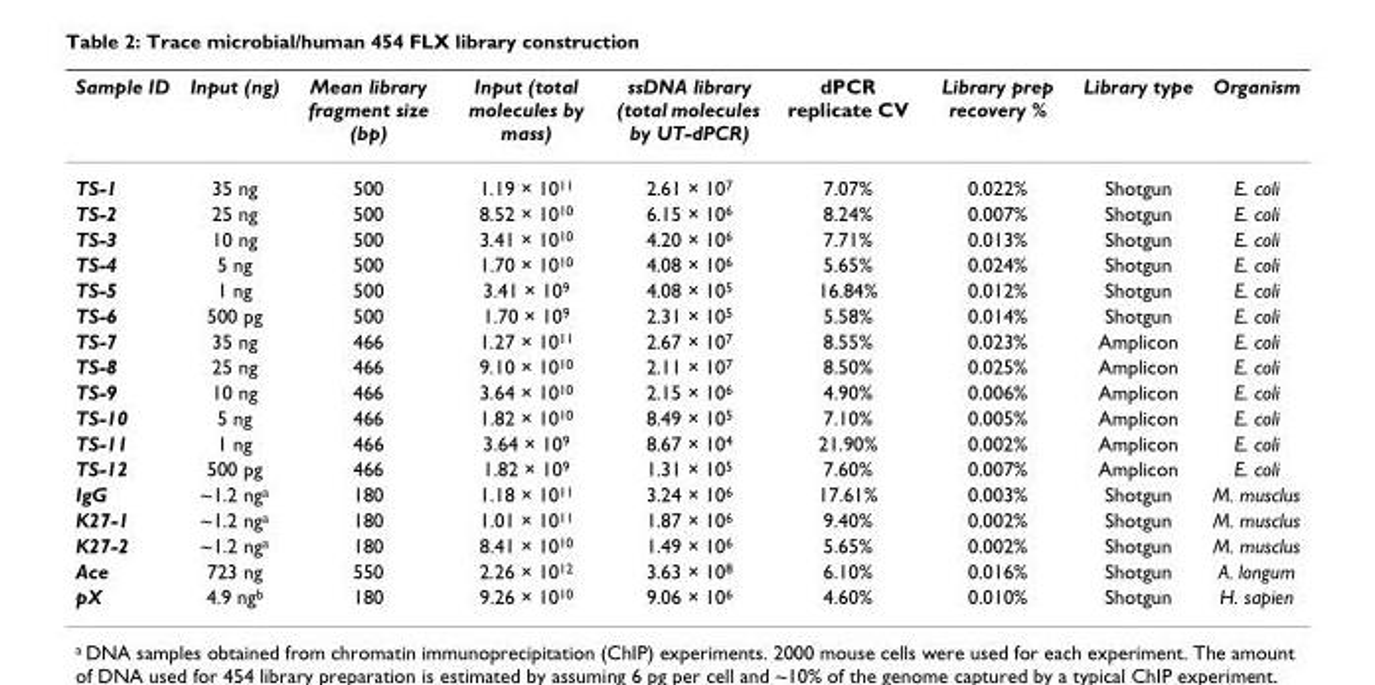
<table><thead><tr><td>Sample ID</td><td>Input (ng)</td><td>Mean library fragment size (bp)</td><td>Input (total molecules by mass)</td><td>ssDNA library (total molecules by UT-dPCR)</td><td>dPCR replicate CV</td><td>Library prep recovery %</td><td>Library type</td><td>Organism</td></tr></thead><tbody><tr><td>TS-1</td><td>35 ng</td><td>500</td><td>1.19 × 10<sup>11</sup></td><td>2.61 × 10<sup>7</sup></td><td>7.07%</td><td>0.022%</td><td>Shotgun</td><td>E. coli</td></tr><tr><td>TS-2</td><td>25 ng</td><td>500</td><td>8.52 × 10<sup>10</sup></td><td>6.15 × 10<sup>6</sup></td><td>8.24%</td><td>0.007%</td><td>Shotgun</td><td>E. coli</td></tr><tr><td>TS-3</td><td>10 ng</td><td>500</td><td>3.41 × 10<sup>10</sup></td><td>4.20 × 10<sup>6</sup></td><td>7.71%</td><td>0.013%</td><td>Shotgun</td><td>E. coli</td></tr><tr><td>TS-4</td><td>5 ng</td><td>500</td><td>1.70 × 10<sup>10</sup></td><td>4.08 × 10<sup>6</sup></td><td>5.65%</td><td>0.024%</td><td>Shotgun</td><td>E. coli</td></tr><tr><td>TS-5</td><td>1 ng</td><td>500</td><td>3.41 × 10<sup>9</sup></td><td>4.08 × 10<sup>5</sup></td><td>16.84%</td><td>0.012%</td><td>Shotgun</td><td>E. coli</td></tr><tr><td>TS-6</td><td>500 pg</td><td>500</td><td>1.70 × 10<sup>9</sup></td><td>2.31 × 10<sup>5</sup></td><td>5.58%</td><td>0.014%</td><td>Shotgun</td><td>E. coli</td></tr><tr><td>TS-7</td><td>35 ng</td><td>466</td><td>1.27 × 10<sup>11</sup></td><td>2.67 × 10<sup>7</sup></td><td>8.55%</td><td>0.023%</td><td>Amplicon</td><td>E. coli</td></tr><tr><td>TS-8</td><td>25 ng</td><td>466</td><td>9.10 × 10<sup>10</sup></td><td>2.11 × 10<sup>7</sup></td><td>8.50%</td><td>0.025%</td><td>Amplicon</td><td>E. coli</td></tr><tr><td>TS-9</td><td>10 ng</td><td>466</td><td>3.64 × 10<sup>10</sup></td><td>2.15 × 10<sup>6</sup></td><td>4.90%</td><td>0.006%</td><td>Amplicon</td><td>E. coli</td></tr><tr><td>TS-10</td><td>5 ng</td><td>466</td><td>1.82 × 10<sup>10</sup></td><td>8.49 × 10<sup>5</sup></td><td>7.10%</td><td>0.005%</td><td>Amplicon</td><td>E. coli</td></tr><tr><td>TS-11</td><td>1 ng</td><td>466</td><td>3.64 × 10<sup>9</sup></td><td>8.67 × 10<sup>4</sup></td><td>21.90%</td><td>0.002%</td><td>Amplicon</td><td>E. coli</td></tr><tr><td>TS-12</td><td>500 pg</td><td>466</td><td>1.82 × 10<sup>9</sup></td><td>1.31 × 10<sup>5</sup></td><td>7.60%</td><td>0.007%</td><td>Amplicon</td><td>E. coli</td></tr><tr><td>IgG</td><td>~1.2 ng<sup>a</sup></td><td>180</td><td>1.18 × 10<sup>11</sup></td><td>3.24 × 10<sup>6</sup></td><td>17.61%</td><td>0.003%</td><td>Shotgun</td><td>M. musclus</td></tr><tr><td>K27-1</td><td>~1.2 ng<sup>a</sup></td><td>180</td><td>1.01 × 10<sup>11</sup></td><td>1.87 × 10<sup>6</sup></td><td>9.40%</td><td>0.002%</td><td>Shotgun</td><td>M. musclus</td></tr><tr><td>K27-2</td><td>~1.2 ng<sup>a</sup></td><td>180</td><td>8.41 × 10<sup>10</sup></td><td>1.49 × 10<sup>6</sup></td><td>5.65%</td><td>0.002%</td><td>Shotgun</td><td>M. musclus</td></tr><tr><td>Ace</td><td>723 ng</td><td>550</td><td>2.26 × 10<sup>12</sup></td><td>3.63 × 10<sup>8</sup></td><td>6.10%</td><td>0.016%</td><td>Shotgun</td><td>A. longum</td></tr><tr><td>pX</td><td>4.9 ng<sup>b</sup></td><td>180</td><td>9.26 × 10<sup>10</sup></td><td>9.06 × 10<sup>6</sup></td><td>4.60%</td><td>0.010%</td><td>Shotgun</td><td>H. sapien</td></tr></tbody></table>